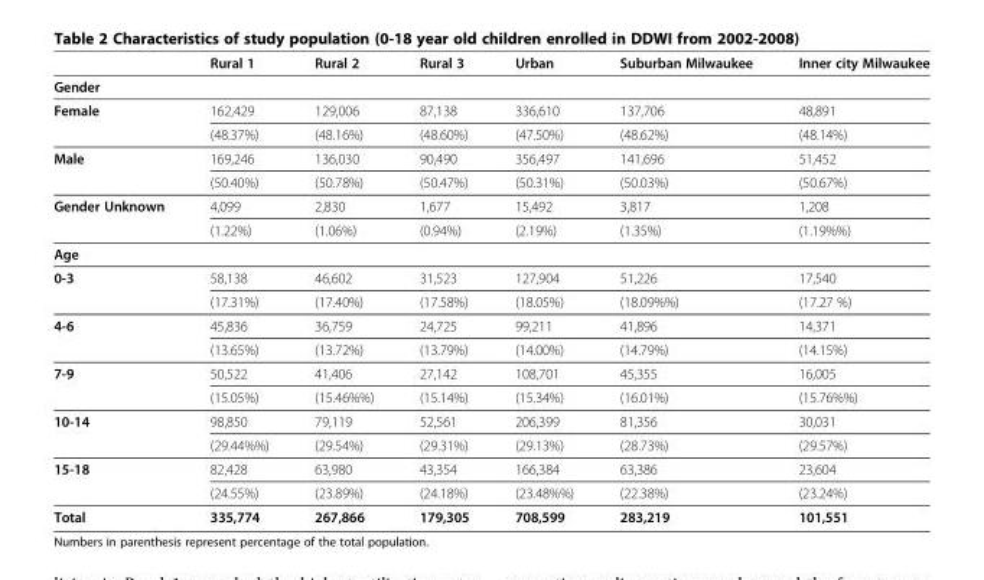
<table><thead><tr><td></td><td>Rural 1</td><td>Rural 2</td><td>Rural 3</td><td>Urban</td><td>Suburban Milwaukee</td><td>Inner city Milwaukee</td></tr></thead><tbody><tr><td colspan="7">Gender</td></tr><tr><td rowspan="2">Female</td><td>162,429</td><td>129,006</td><td>87,138</td><td>336,610</td><td>137,706</td><td>48,891</td></tr><tr><td>(48.37%)</td><td>(48.16%)</td><td>(48.60%)</td><td>(47.50%)</td><td>(48.62%)</td><td>(48.14%)</td></tr><tr><td rowspan="2">Male</td><td>169,246</td><td>136,030</td><td>90,490</td><td>356,497</td><td>141,696</td><td>51,452</td></tr><tr><td>(50.40%)</td><td>(50.78%)</td><td>(50.47%)</td><td>(50.31%)</td><td>(50.03%)</td><td>(50.67%)</td></tr><tr><td rowspan="2">Gender Unknown</td><td>4,099</td><td>2,830</td><td>1,677</td><td>15,492</td><td>3,817</td><td>1,208</td></tr><tr><td>(1.22%)</td><td>(1.06%)</td><td>(0.94%)</td><td>(2.19%)</td><td>(1.35%)</td><td>(1.19%%)</td></tr><tr><td colspan="7">Age</td></tr><tr><td rowspan="2">0-3</td><td>58,138</td><td>46,602</td><td>31,523</td><td>127,904</td><td>51,226</td><td>17,540</td></tr><tr><td>(17.31%)</td><td>(17.40%)</td><td>(17.58%)</td><td>(18.05%)</td><td>(18.09%%)</td><td>(17.27 %)</td></tr><tr><td rowspan="2">4-6</td><td>45,836</td><td>36,759</td><td>24,725</td><td>99,211</td><td>41,896</td><td>14,371</td></tr><tr><td>(13.65%)</td><td>(13.72%)</td><td>(13.79%)</td><td>(14.00%)</td><td>(14.79%)</td><td>(14.15%)</td></tr><tr><td rowspan="2">7-9</td><td>50,522</td><td>41,406</td><td>27,142</td><td>108,701</td><td>45,355</td><td>16,005</td></tr><tr><td>(15.05%)</td><td>(15.46%%)</td><td>(15.14%)</td><td>(15.34%)</td><td>(16.01%)</td><td>(15.76%%)</td></tr><tr><td rowspan="2">10-14</td><td>98,850</td><td>79,119</td><td>52,561</td><td>206,399</td><td>81,356</td><td>30,031</td></tr><tr><td>(29.44%%)</td><td>(29.54%)</td><td>(29.31%)</td><td>(29.13%)</td><td>(28.73%)</td><td>(29.57%)</td></tr><tr><td rowspan="2">15-18</td><td>82,428</td><td>63,980</td><td>43,354</td><td>166,384</td><td>63,386</td><td>23,604</td></tr><tr><td>(24.55%)</td><td>(23.89%)</td><td>(24.18%)</td><td>(23.48%%)</td><td>(22.38%)</td><td>(23.24%)</td></tr><tr><td>Total</td><td>335,774</td><td>267,866</td><td>179,305</td><td>708,599</td><td>283,219</td><td>101,551</td></tr></tbody></table>